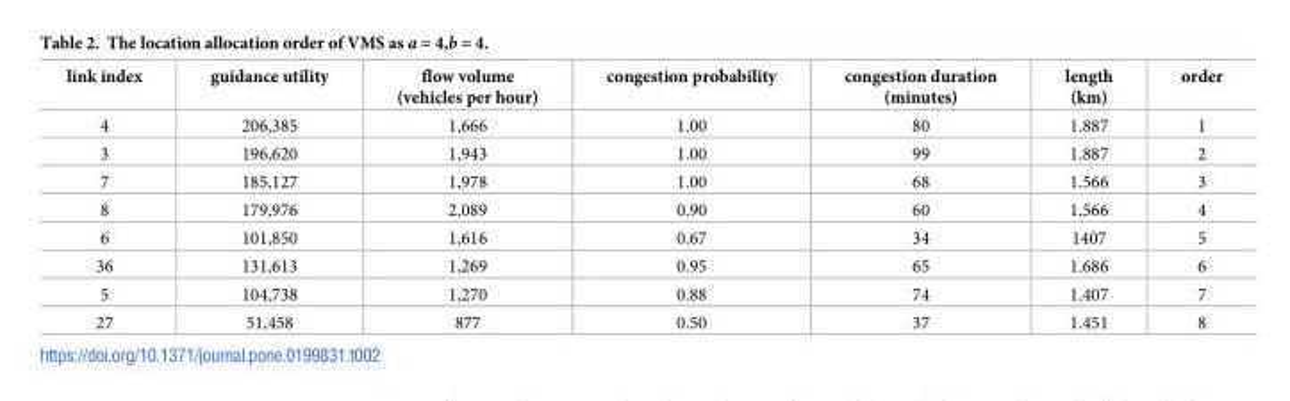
<table><thead><tr><td>link index</td><td>guidance utility</td><td>flow volume (vehicles per hour)</td><td>congestion probability</td><td>congestion duration (minutes)</td><td>length (km)</td><td>order</td></tr></thead><tbody><tr><td>4</td><td>206,385</td><td>1,666</td><td>1.00</td><td>80</td><td>1.887</td><td>1</td></tr><tr><td>3</td><td>196,620</td><td>1,943</td><td>1.00</td><td>99</td><td>1.887</td><td>2</td></tr><tr><td>7</td><td>185,127</td><td>1,978</td><td>1.00</td><td>68</td><td>1.566</td><td>3</td></tr><tr><td>8</td><td>179,976</td><td>2,089</td><td>0.90</td><td>60</td><td>1.566</td><td>4</td></tr><tr><td>6</td><td>101,850</td><td>1,616</td><td>0.67</td><td>34</td><td>1407</td><td>5</td></tr><tr><td>36</td><td>131,613</td><td>1,269</td><td>0.95</td><td>65</td><td>1.686</td><td>6</td></tr><tr><td>5</td><td>104,738</td><td>1,270</td><td>0.88</td><td>74</td><td>1.407</td><td>7</td></tr><tr><td>27</td><td>51,458</td><td>877</td><td>0.50</td><td>37</td><td>1.451</td><td>8</td></tr></tbody></table>